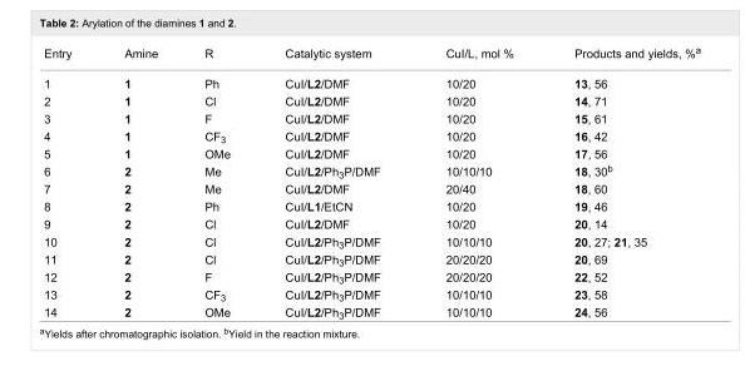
<table><tbody><tr><td>Entry</td><td>Amine</td><td>R</td><td>Catalytic system</td><td>CuI/L, mol %</td><td>Products and yields, %<sup>a</sup></td></tr><tr><td>1</td><td>1</td><td>Ph</td><td>CuI/L2/DMF</td><td>10/20</td><td>13, 56</td></tr><tr><td>2</td><td>1</td><td>Cl</td><td>CuI/L2/DMF</td><td>10/20</td><td>14, 71</td></tr><tr><td>3</td><td>1</td><td>F</td><td>CuI/L2/DMF</td><td>10/20</td><td>15, 61</td></tr><tr><td>4</td><td>1</td><td>CF<sub>3</sub></td><td>CuI/L2/DMF</td><td>10/20</td><td>16, 42</td></tr><tr><td>5</td><td>1</td><td>OMe</td><td>CuI/L2/DMF</td><td>10/20</td><td>17, 56</td></tr><tr><td>6</td><td>2</td><td>Me</td><td>CuI/L2/Ph<sub>3</sub>P/DMF</td><td>10/10/10</td><td>18, 30<sup>b</sup></td></tr><tr><td>7</td><td>2</td><td>Me</td><td>CuI/L2/DMF</td><td>20/40</td><td>18, 60</td></tr><tr><td>8</td><td>2</td><td>Ph</td><td>CuI/L1/EtCN</td><td>10/20</td><td>19, 46</td></tr><tr><td>9</td><td>2</td><td>Cl</td><td>CuI/L2/DMF</td><td>10/20</td><td>20, 14</td></tr><tr><td>10</td><td>2</td><td>Cl</td><td>CuI/L2/Ph<sub>3</sub>P/DMF</td><td>10/10/10</td><td>20, 27; 21, 35</td></tr><tr><td>11</td><td>2</td><td>Cl</td><td>CuI/L2/Ph<sub>3</sub>P/DMF</td><td>20/20/20</td><td>20, 69</td></tr><tr><td>12</td><td>2</td><td>F</td><td>CuI/L2/Ph<sub>3</sub>P/DMF</td><td>20/20/20</td><td>22, 52</td></tr><tr><td>13</td><td>2</td><td>CF<sub>3</sub></td><td>CuI/L2/Ph<sub>3</sub>P/DMF</td><td>10/10/10</td><td>23, 58</td></tr><tr><td>14</td><td>2</td><td>OMe</td><td>CuI/L2/Ph<sub>3</sub>P/DMF</td><td>10/10/10</td><td>24, 56</td></tr></tbody></table>